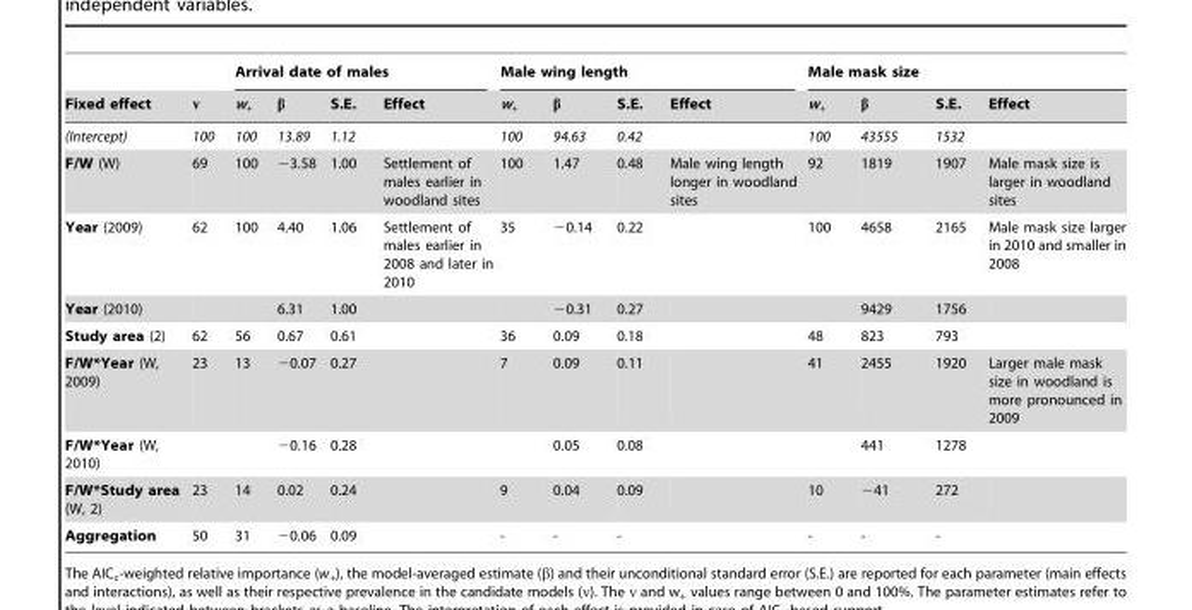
<table><thead><tr><td rowspan="2">Fixed effect</td><td rowspan="2">ν</td><td colspan="4">Arrival date of males</td><td colspan="4">Male wing length</td><td colspan="4">Male mask size</td></tr><tr><td>w<sub>+</sub></td><td>β</td><td>S.E.</td><td>Effect</td><td>w<sub>+</sub></td><td>β</td><td>S.E.</td><td>Effect</td><td>w<sub>+</sub></td><td>β</td><td>S.E.</td><td>Effect</td></tr></thead><tbody><tr><td>(Intercept)</td><td>100</td><td>100</td><td>13.89</td><td>1.12</td><td></td><td>100</td><td>94.63</td><td>0.42</td><td></td><td>100</td><td>43555</td><td>1532</td><td></td></tr><tr><td>F/W (W)</td><td>69</td><td>100</td><td>−3.58</td><td>1.00</td><td>Settlement of males earlier in woodland sites</td><td>100</td><td>1.47</td><td>0.48</td><td>Male wing length longer in woodland sites</td><td>92</td><td>1819</td><td>1907</td><td>Male mask size is larger in woodland sites</td></tr><tr><td>Year (2009)</td><td>62</td><td>100</td><td>4.40</td><td>1.06</td><td>Settlement of males earlier in 2008 and later in 2010</td><td>35</td><td>−0.14</td><td>0.22</td><td></td><td>100</td><td>4658</td><td>2165</td><td>Male mask size larger in 2010 and smaller in 2008</td></tr><tr><td>Year (2010)</td><td></td><td></td><td>6.31</td><td>1.00</td><td></td><td></td><td>−0.31</td><td>0.27</td><td></td><td></td><td>9429</td><td>1756</td><td></td></tr><tr><td>Study area (2)</td><td>62</td><td>56</td><td>0.67</td><td>0.61</td><td></td><td>36</td><td>0.09</td><td>0.18</td><td></td><td>48</td><td>823</td><td>793</td><td></td></tr><tr><td>F/W*Year (W, 2009)</td><td>23</td><td>13</td><td>−0.07</td><td>0.27</td><td></td><td>7</td><td>0.09</td><td>0.11</td><td></td><td>41</td><td>2455</td><td>1920</td><td>Larger male mask size in woodland is more pronounced in 2009</td></tr><tr><td>F/W*Year (W, 2010)</td><td></td><td></td><td>−0.16</td><td>0.28</td><td></td><td></td><td>0.05</td><td>0.08</td><td></td><td></td><td>441</td><td>1278</td><td></td></tr><tr><td>F/W*Study area (W, 2)</td><td>23</td><td>14</td><td>0.02</td><td>0.24</td><td></td><td>9</td><td>0.04</td><td>0.09</td><td></td><td>10</td><td>−41</td><td>272</td><td></td></tr><tr><td>Aggregation</td><td>50</td><td>31</td><td>−0.06</td><td>0.09</td><td></td><td>-</td><td>-</td><td>-</td><td></td><td>-</td><td>-</td><td>-</td><td></td></tr></tbody></table>